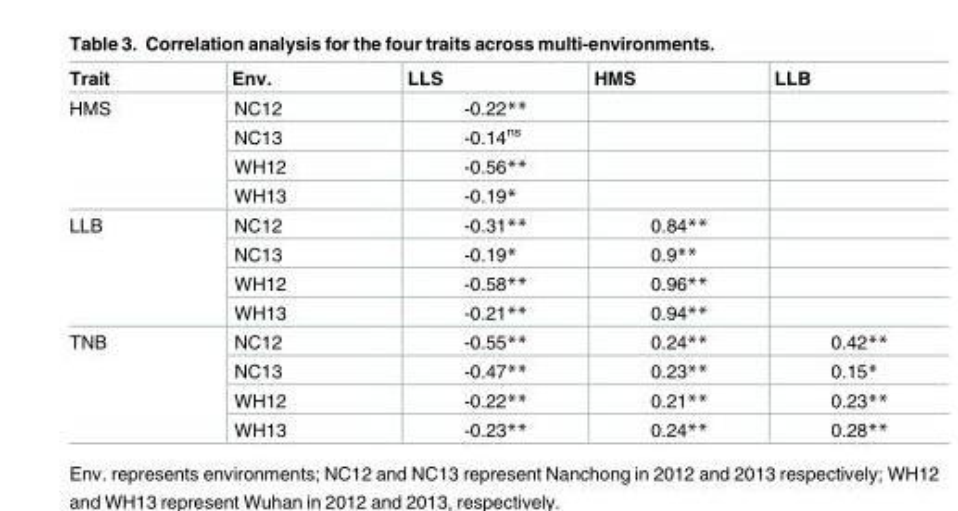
<table><thead><tr><td>Trait</td><td>Env.</td><td>LLS</td><td>HMS</td><td>LLB</td></tr></thead><tbody><tr><td rowspan="4">HMS</td><td>NC12</td><td>-0.22**</td><td></td><td></td></tr><tr><td>NC13</td><td>-0.14<sup>ns</sup></td><td></td><td></td></tr><tr><td>WH12</td><td>-0.56**</td><td></td><td></td></tr><tr><td>WH13</td><td>-0.19*</td><td></td><td></td></tr><tr><td rowspan="4">LLB</td><td>NC12</td><td>-0.31**</td><td>0.84**</td><td></td></tr><tr><td>NC13</td><td>-0.19*</td><td>0.9**</td><td></td></tr><tr><td>WH12</td><td>-0.58**</td><td>0.96**</td><td></td></tr><tr><td>WH13</td><td>-0.21**</td><td>0.94**</td><td></td></tr><tr><td rowspan="4">TNB</td><td>NC12</td><td>-0.55**</td><td>0.24**</td><td>0.42**</td></tr><tr><td>NC13</td><td>-0.47**</td><td>0.23**</td><td>0.15*</td></tr><tr><td>WH12</td><td>-0.22**</td><td>0.21**</td><td>0.23**</td></tr><tr><td>WH13</td><td>-0.23**</td><td>0.24**</td><td>0.28**</td></tr></tbody></table>